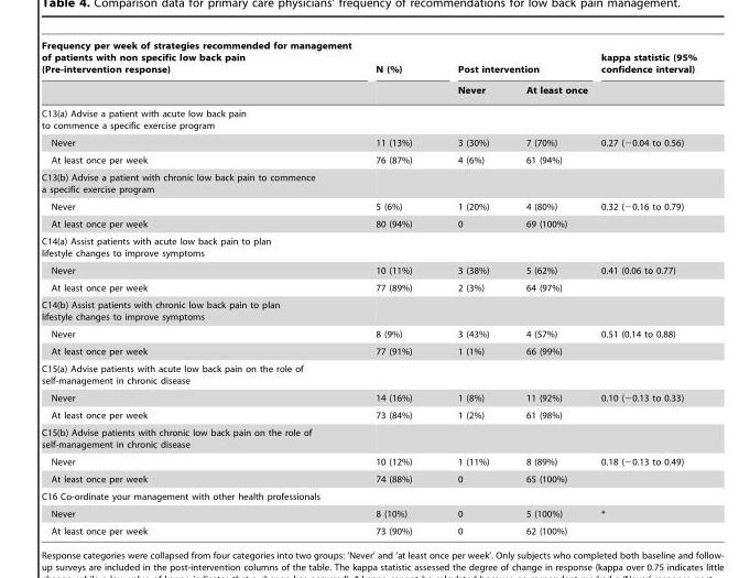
<table><thead><tr><td rowspan="2">Frequency per week of strategies recommended for management of patients with non specific low back pain (Pre-intervention response)</td><td rowspan="2">N (%)</td><td colspan="2">Post intervention</td><td rowspan="2">kappa statistic (95% confidence interval)</td></tr><tr><td>Never</td><td>At least once</td></tr></thead><tbody><tr><td colspan="5">C13(a) Advise a patient with acute low back pain to commence a specific exercise program</td></tr><tr><td>Never</td><td>11 (13%)</td><td>3 (30%)</td><td>7 (70%)</td><td>0.27 (−0.04 to 0.56)</td></tr><tr><td>At least once per week</td><td>76 (87%)</td><td>4 (6%)</td><td>61 (94%)</td><td></td></tr><tr><td colspan="5">C13(b) Advise a patient with chronic low back pain to commence a specific exercise program</td></tr><tr><td>Never</td><td>5 (6%)</td><td>1 (20%)</td><td>4 (80%)</td><td>0.32 (−0.16 to 0.79)</td></tr><tr><td>At least once per week</td><td>80 (94%)</td><td>0</td><td>69 (100%)</td><td></td></tr><tr><td colspan="5">C14(a) Assist patients with acute low back pain to plan lifestyle changes to improve symptoms</td></tr><tr><td>Never</td><td>10 (11%)</td><td>3 (38%)</td><td>5 (62%)</td><td>0.41 (0.06 to 0.77)</td></tr><tr><td>At least once per week</td><td>77 (89%)</td><td>2 (3%)</td><td>64 (97%)</td><td></td></tr><tr><td colspan="5">C14(b) Assist patients with chronic low back pain to plan lifestyle changes to improve symptoms</td></tr><tr><td>Never</td><td>8 (9%)</td><td>3 (43%)</td><td>4 (57%)</td><td>0.51 (0.14 to 0.88)</td></tr><tr><td>At least once per week</td><td>77 (91%)</td><td>1 (1%)</td><td>66 (99%)</td><td></td></tr><tr><td colspan="5">C15(a) Advise patients with acute low back pain on the role of self-management in chronic disease</td></tr><tr><td>Never</td><td>14 (16%)</td><td>1 (8%)</td><td>11 (92%)</td><td>0.10 (−0.13 to 0.33)</td></tr><tr><td>At least once per week</td><td>73 (84%)</td><td>1 (2%)</td><td>61 (98%)</td><td></td></tr><tr><td colspan="5">C15(b) Advise patients with chronic low back pain on the role of self-management in chronic disease</td></tr><tr><td>Never</td><td>10 (12%)</td><td>1 (11%)</td><td>8 (89%)</td><td>0.18 (−0.13 to 0.49)</td></tr><tr><td>At least once per week</td><td>74 (88%)</td><td>0</td><td>65 (100%)</td><td></td></tr><tr><td colspan="5">C16 Co-ordinate your management with other health professionals</td></tr><tr><td>Never</td><td>8 (10%)</td><td>0</td><td>5 (100%)</td><td>*</td></tr><tr><td>At least once per week</td><td>73 (90%)</td><td>0</td><td>62 (100%)</td><td></td></tr></tbody></table>